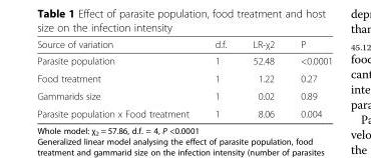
<table><thead><tr><td>Source of variation</td><td>d.f.</td><td>LR-χ2</td><td>P</td></tr></thead><tbody><tr><td>Parasite population</td><td>1</td><td>52.48</td><td>&lt;0.0001</td></tr><tr><td>Food treatment</td><td>1</td><td>1.22</td><td>0.27</td></tr><tr><td>Gammarids size</td><td>1</td><td>0.02</td><td>0.89</td></tr><tr><td>Parasite population x Food treatment</td><td>1</td><td>8.06</td><td>0.004</td></tr></tbody></table>